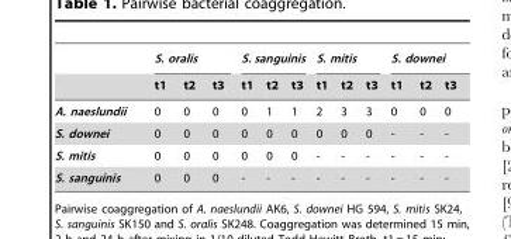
<table><thead><tr><td rowspan="2"></td><td colspan="3">S. oralis</td><td colspan="3">S. sanguinis</td><td colspan="3">S. mitis</td><td colspan="3">S. downei</td></tr><tr><td>t1</td><td>t2</td><td>t3</td><td>t1</td><td>t2</td><td>t3</td><td>t1</td><td>t2</td><td>t3</td><td>t1</td><td>t2</td><td>t3</td></tr></thead><tbody><tr><td>A. naeslundii</td><td>0</td><td>0</td><td>0</td><td>0</td><td>1</td><td>1</td><td>2</td><td>3</td><td>3</td><td>0</td><td>0</td><td>0</td></tr><tr><td>S. downei</td><td>0</td><td>0</td><td>0</td><td>0</td><td>0</td><td>0</td><td>0</td><td>0</td><td>0</td><td>-</td><td>-</td><td>-</td></tr><tr><td>S. mitis</td><td>0</td><td>0</td><td>0</td><td>0</td><td>0</td><td>0</td><td>-</td><td>-</td><td>-</td><td>-</td><td>-</td><td>-</td></tr><tr><td>S. sanguinis</td><td>0</td><td>0</td><td>0</td><td>-</td><td>-</td><td>-</td><td>-</td><td>-</td><td>-</td><td>-</td><td>-</td><td>-</td></tr></tbody></table>